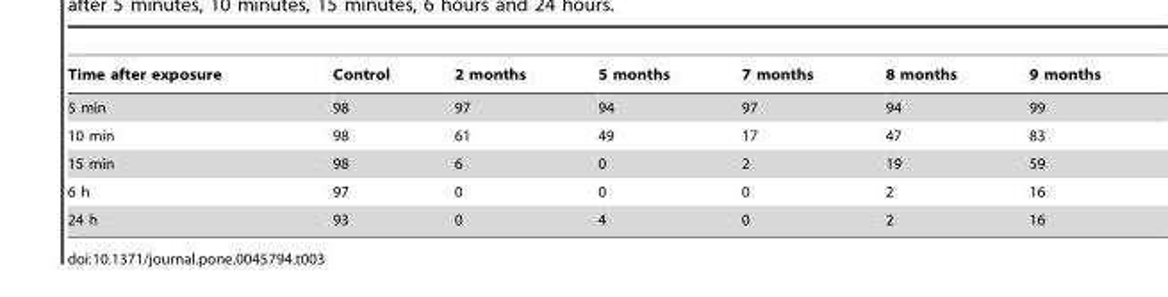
<table><thead><tr><td>Time after exposure</td><td>Control</td><td>2 months</td><td>5 months</td><td>7 months</td><td>8 months</td><td>9 months</td></tr></thead><tbody><tr><td>5 min</td><td>98</td><td>97</td><td>94</td><td>97</td><td>94</td><td>99</td></tr><tr><td>10 min</td><td>98</td><td>61</td><td>49</td><td>17</td><td>47</td><td>83</td></tr><tr><td>15 min</td><td>98</td><td>6</td><td>0</td><td>2</td><td>19</td><td>59</td></tr><tr><td>6 h</td><td>97</td><td>0</td><td>0</td><td>0</td><td>2</td><td>16</td></tr><tr><td>24 h</td><td>93</td><td>0</td><td>4</td><td>0</td><td>2</td><td>16</td></tr></tbody></table>